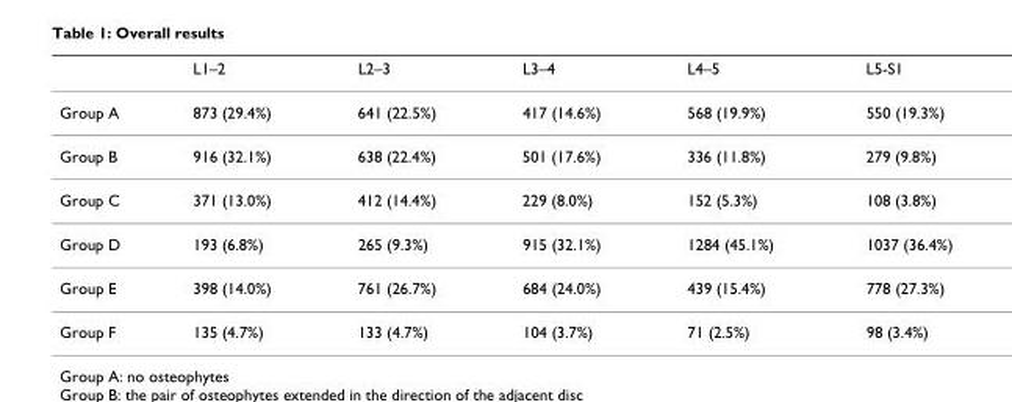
<table><thead><tr><td></td><td>L1–2</td><td>L2–3</td><td>L3–4</td><td>L4–5</td><td>L5-S1</td></tr></thead><tbody><tr><td>Group A</td><td>873 (29.4%)</td><td>641 (22.5%)</td><td>417 (14.6%)</td><td>568 (19.9%)</td><td>550 (19.3%)</td></tr><tr><td>Group B</td><td>916 (32.1%)</td><td>638 (22.4%)</td><td>501 (17.6%)</td><td>336 (11.8%)</td><td>279 (9.8%)</td></tr><tr><td>Group C</td><td>371 (13.0%)</td><td>412 (14.4%)</td><td>229 (8.0%)</td><td>152 (5.3%)</td><td>108 (3.8%)</td></tr><tr><td>Group D</td><td>193 (6.8%)</td><td>265 (9.3%)</td><td>915 (32.1%)</td><td>1284 (45.1%)</td><td>1037 (36.4%)</td></tr><tr><td>Group E</td><td>398 (14.0%)</td><td>761 (26.7%)</td><td>684 (24.0%)</td><td>439 (15.4%)</td><td>778 (27.3%)</td></tr><tr><td>Group F</td><td>135 (4.7%)</td><td>133 (4.7%)</td><td>104 (3.7%)</td><td>71 (2.5%)</td><td>98 (3.4%)</td></tr></tbody></table>